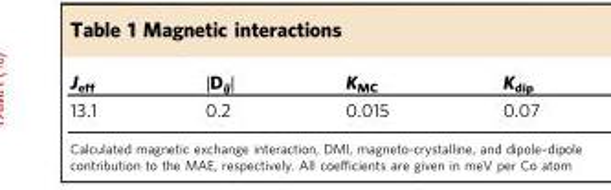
<table><thead><tr><td>J<sub>eff</sub></td><td>∣D<sub>ij</sub>∣</td><td>K<sub>MC</sub></td><td>K<sub>dip</sub></td></tr></thead><tbody><tr><td>13.1</td><td>0.2</td><td>0.015</td><td>0.07</td></tr></tbody></table>